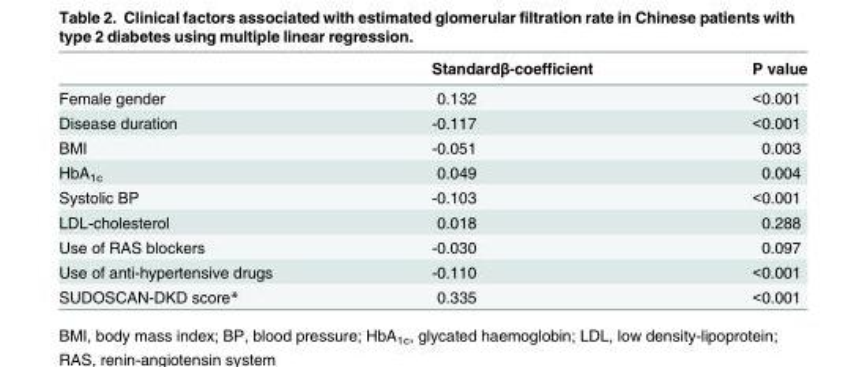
<table><thead><tr><td></td><td>Standardβ-coefficient</td><td>P value</td></tr></thead><tbody><tr><td>Female gender</td><td>0.132</td><td>&lt;0.001</td></tr><tr><td>Disease duration</td><td>-0.117</td><td>&lt;0.001</td></tr><tr><td>BMI</td><td>-0.051</td><td>0.003</td></tr><tr><td>HbA<sub>1c</sub></td><td>0.049</td><td>0.004</td></tr><tr><td>Systolic BP</td><td>-0.103</td><td>&lt;0.001</td></tr><tr><td>LDL-cholesterol</td><td>0.018</td><td>0.288</td></tr><tr><td>Use of RAS blockers</td><td>-0.030</td><td>0.097</td></tr><tr><td>Use of anti-hypertensive drugs</td><td>-0.110</td><td>&lt;0.001</td></tr><tr><td>SUDOSCAN-DKD score*</td><td>0.335</td><td>&lt;0.001</td></tr></tbody></table>